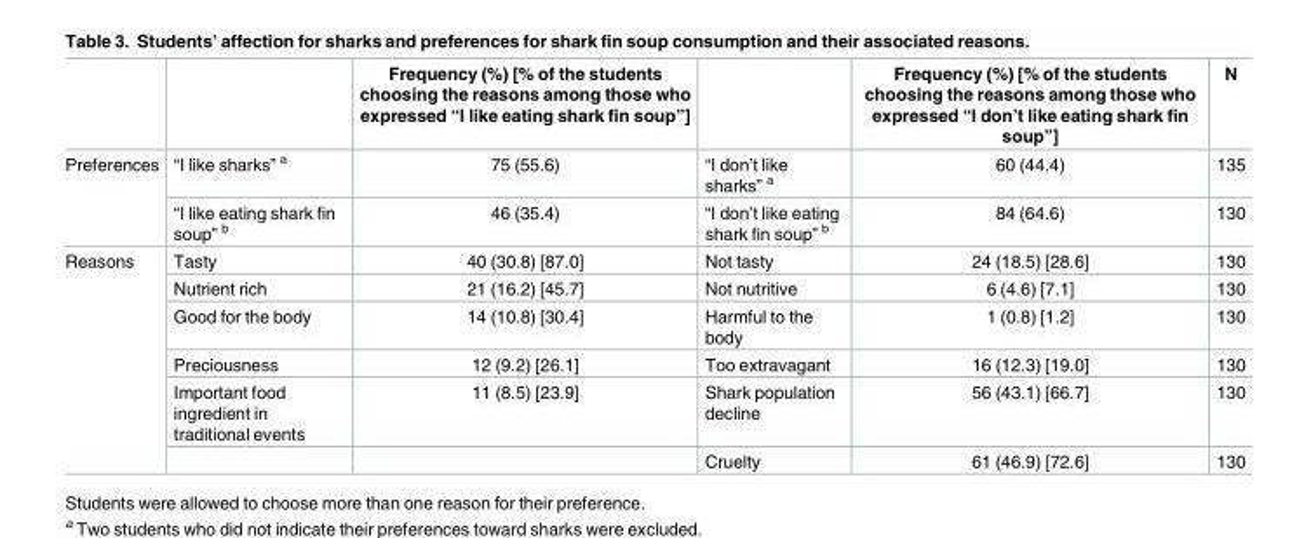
<table><thead><tr><td></td><td></td><td>Frequency (%) [% of the students choosing the reasons among those who expressed “I like eating shark fin soup”]</td><td></td><td>Frequency (%) [% of the students choosing the reasons among those who expressed “I don’t like eating shark fin soup”]</td><td>N</td></tr></thead><tbody><tr><td rowspan="2">Preferences</td><td>“I like sharks” <sup>a</sup></td><td>75 (55.6)</td><td>“I don’t like sharks” <sup>a</sup></td><td>60 (44.4)</td><td>135</td></tr><tr><td>“I like eating shark fin soup” <sup>b</sup></td><td>46 (35.4)</td><td>“I don’t like eating shark fin soup” <sup>b</sup></td><td>84 (64.6)</td><td>130</td></tr><tr><td rowspan="6">Reasons</td><td>Tasty</td><td>40 (30.8) [87.0]</td><td>Not tasty</td><td>24 (18.5) [28.6]</td><td>130</td></tr><tr><td>Nutrient rich</td><td>21 (16.2) [45.7]</td><td>Not nutritive</td><td>6 (4.6) [7.1]</td><td>130</td></tr><tr><td>Good for the body</td><td>14 (10.8) [30.4]</td><td>Harmful to the body</td><td>1 (0.8) [1.2]</td><td>130</td></tr><tr><td>Preciousness</td><td>12 (9.2) [26.1]</td><td>Too extravagant</td><td>16 (12.3) [19.0]</td><td>130</td></tr><tr><td>Important food ingredient in traditional events</td><td>11 (8.5) [23.9]</td><td>Shark population decline</td><td>56 (43.1) [66.7]</td><td>130</td></tr><tr><td></td><td></td><td>Cruelty</td><td>61 (46.9) [72.6]</td><td>130</td></tr></tbody></table>